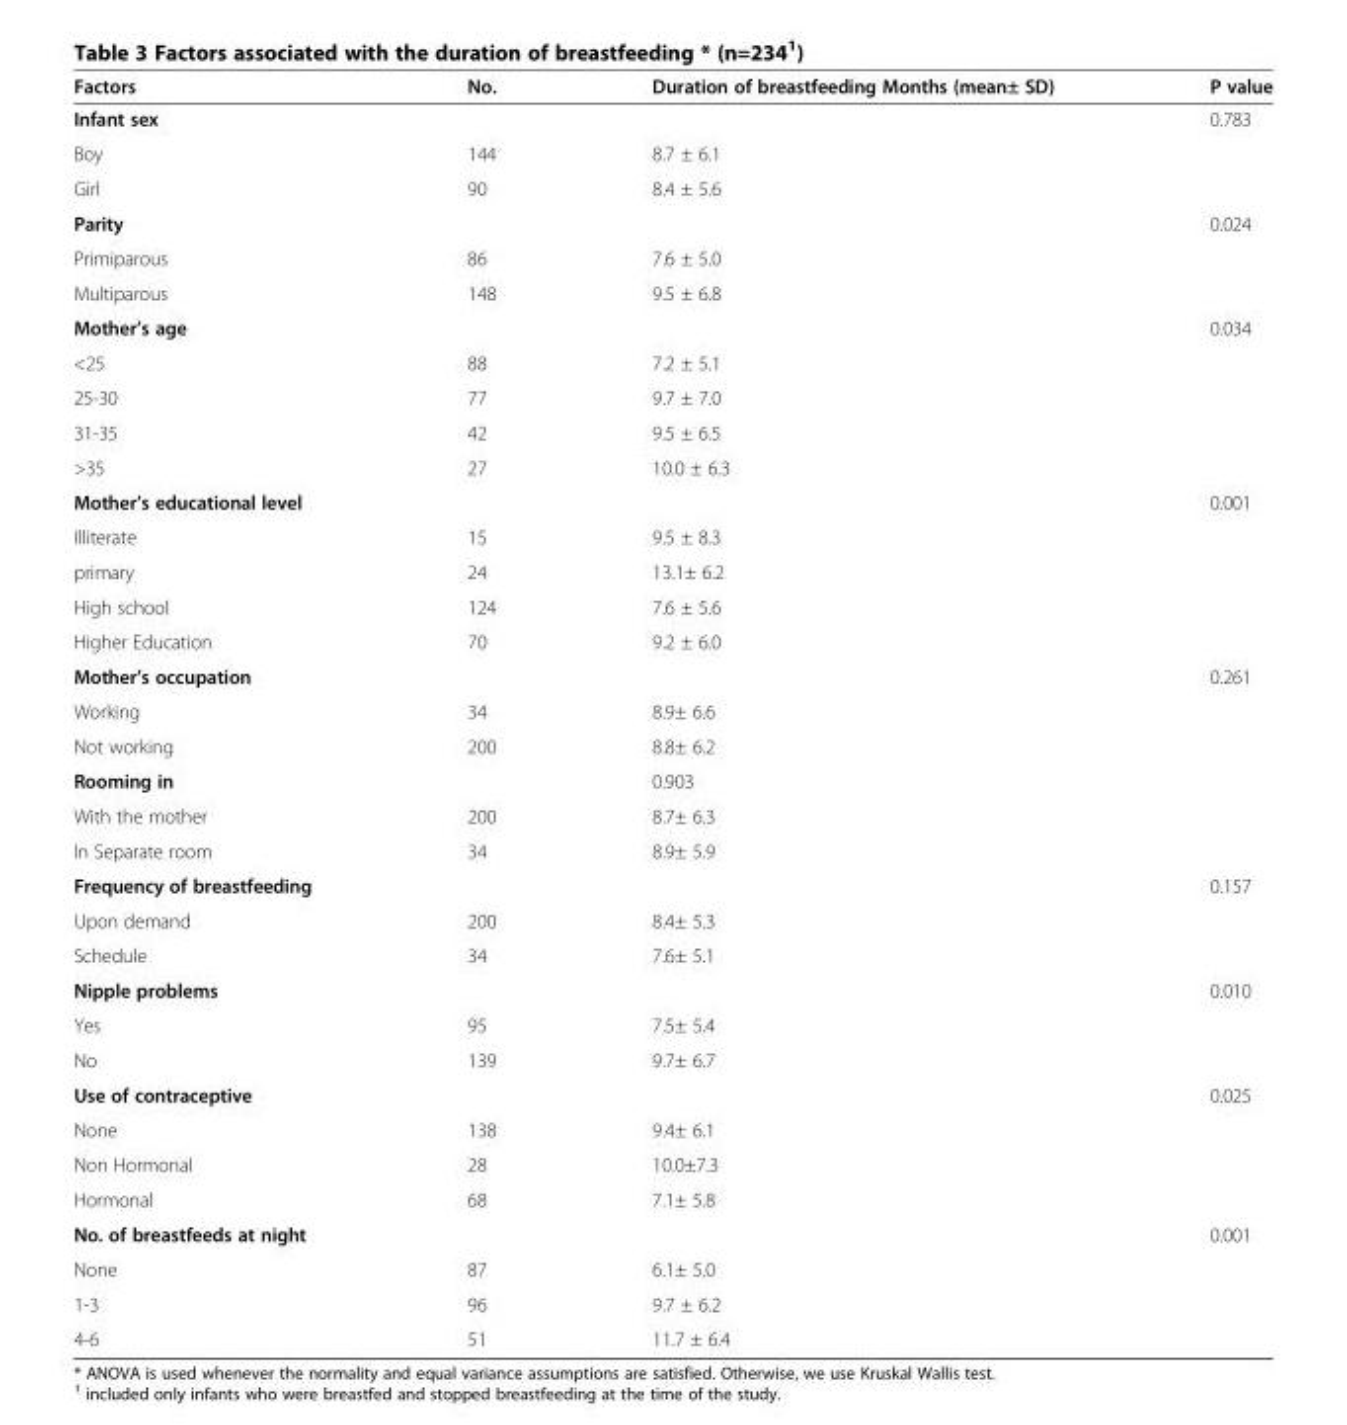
<table><thead><tr><td>Factors</td><td>No.</td><td>Duration of breastfeeding Months (mean± SD)</td><td>P value</td></tr></thead><tbody><tr><td>Infant sex</td><td></td><td></td><td>0.783</td></tr><tr><td>Boy</td><td>144</td><td>8.7 ± 6.1</td><td></td></tr><tr><td>Girl</td><td>90</td><td>8.4 ± 5.6</td><td></td></tr><tr><td>Parity</td><td></td><td></td><td>0.024</td></tr><tr><td>Primiparous</td><td>86</td><td>7.6 ± 5.0</td><td></td></tr><tr><td>Multiparous</td><td>148</td><td>9.5 ± 6.8</td><td></td></tr><tr><td>Mother’s age</td><td></td><td></td><td>0.034</td></tr><tr><td>&lt;25</td><td>88</td><td>7.2 ± 5.1</td><td></td></tr><tr><td>25-30</td><td>77</td><td>9.7 ± 7.0</td><td></td></tr><tr><td>31-35</td><td>42</td><td>9.5 ± 6.5</td><td></td></tr><tr><td>&gt;35</td><td>27</td><td>10.0 ± 6.3</td><td></td></tr><tr><td>Mother’s educational level</td><td></td><td></td><td>0.001</td></tr><tr><td>Illiterate</td><td>15</td><td>9.5 ± 8.3</td><td></td></tr><tr><td>primary</td><td>24</td><td>13.1± 6.2</td><td></td></tr><tr><td>High school</td><td>124</td><td>7.6 ± 5.6</td><td></td></tr><tr><td>Higher Education</td><td>70</td><td>9.2 ± 6.0</td><td></td></tr><tr><td>Mother’s occupation</td><td></td><td></td><td>0.261</td></tr><tr><td>Working</td><td>34</td><td>8.9± 6.6</td><td></td></tr><tr><td>Not working</td><td>200</td><td>8.8± 6.2</td><td></td></tr><tr><td>Rooming in</td><td></td><td>0.903</td><td></td></tr><tr><td>With the mother</td><td>200</td><td>8.7± 6.3</td><td></td></tr><tr><td>In Separate room</td><td>34</td><td>8.9± 5.9</td><td></td></tr><tr><td>Frequency of breastfeeding</td><td></td><td></td><td>0.157</td></tr><tr><td>Upon demand</td><td>200</td><td>8.4± 5.3</td><td></td></tr><tr><td>Schedule</td><td>34</td><td>7.6± 5.1</td><td></td></tr><tr><td>Nipple problems</td><td></td><td></td><td>0.010</td></tr><tr><td>Yes</td><td>95</td><td>7.5± 5.4</td><td></td></tr><tr><td>No</td><td>139</td><td>9.7± 6.7</td><td></td></tr><tr><td>Use of contraceptive</td><td></td><td></td><td>0.025</td></tr><tr><td>None</td><td>138</td><td>9.4± 6.1</td><td></td></tr><tr><td>Non Hormonal</td><td>28</td><td>10.0±7.3</td><td></td></tr><tr><td>Hormonal</td><td>68</td><td>7.1± 5.8</td><td></td></tr><tr><td>No. of breastfeeds at night</td><td></td><td></td><td>0.001</td></tr><tr><td>None</td><td>87</td><td>6.1± 5.0</td><td></td></tr><tr><td>1-3</td><td>96</td><td>9.7 ± 6.2</td><td></td></tr><tr><td>4-6</td><td>51</td><td>11.7 ± 6.4</td><td></td></tr></tbody></table>